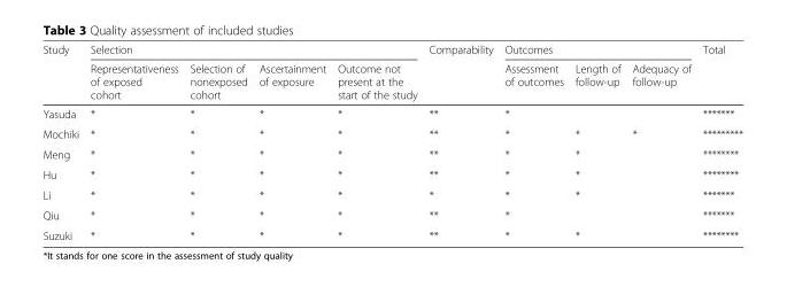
<table><thead><tr><td rowspan="2">Study</td><td colspan="4">Selection</td><td rowspan="2">Comparability</td><td colspan="3">Outcomes</td><td rowspan="2">Total</td></tr><tr><td>Representativeness of exposed cohort</td><td>Selection of nonexposed cohort</td><td>Ascertainment of exposure</td><td>Outcome not present at the start of the study</td><td>Assessment of outcomes</td><td>Length of follow-up</td><td>Adequacy of follow-up</td></tr></thead><tbody><tr><td>Yasuda</td><td>*</td><td>*</td><td>*</td><td>*</td><td>**</td><td>*</td><td></td><td></td><td>*******</td></tr><tr><td>Mochiki</td><td>*</td><td>*</td><td>*</td><td>*</td><td>**</td><td>*</td><td>*</td><td>*</td><td>*********</td></tr><tr><td>Meng</td><td>*</td><td>*</td><td>*</td><td>*</td><td>**</td><td>*</td><td>*</td><td></td><td>********</td></tr><tr><td>Hu</td><td>*</td><td>*</td><td>*</td><td>*</td><td>**</td><td>*</td><td>*</td><td></td><td>********</td></tr><tr><td>Li</td><td>*</td><td>*</td><td>*</td><td>*</td><td>*</td><td>*</td><td>*</td><td></td><td>*******</td></tr><tr><td>Qiu</td><td>*</td><td>*</td><td>*</td><td>*</td><td>**</td><td>*</td><td></td><td></td><td>*******</td></tr><tr><td>Suzuki</td><td>*</td><td>*</td><td>*</td><td>*</td><td>**</td><td>*</td><td>*</td><td></td><td>********</td></tr></tbody></table>